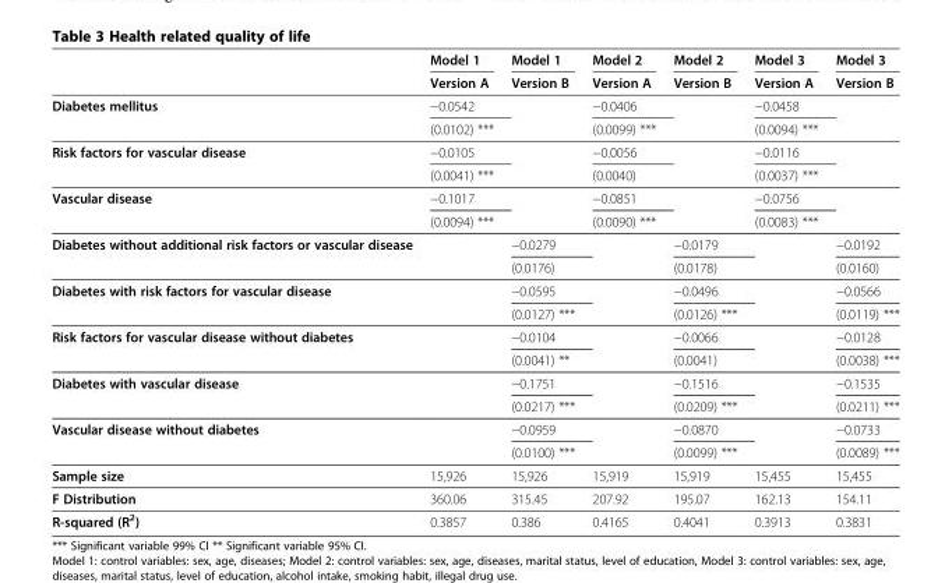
<table><thead><tr><td rowspan="2"></td><td rowspan="2">Model 1 Version A</td><td rowspan="2">Model 1 Version B</td><td rowspan="2">Model 2 Version A</td><td rowspan="2">Model 2 Version B</td><td rowspan="2">Model 3 Version A</td><td rowspan="2">Model 3 Version B</td></tr><tr></tr></thead><tbody><tr><td rowspan="2">Diabetes mellitus</td><td>−0.0542</td><td></td><td>−0.0406</td><td></td><td>−0.0458</td><td></td></tr><tr><td>(0.0102) ***</td><td></td><td>(0.0099) ***</td><td></td><td>(0.0094) ***</td><td></td></tr><tr><td rowspan="2">Risk factors for vascular disease</td><td>−0.0105</td><td></td><td>−0.0056</td><td></td><td>−0.0116</td><td></td></tr><tr><td>(0.0041) ***</td><td></td><td>(0.0040)</td><td></td><td>(0.0037) ***</td><td></td></tr><tr><td rowspan="2">Vascular disease</td><td>−0.1017</td><td></td><td>−0.0851</td><td></td><td>−0.0756</td><td></td></tr><tr><td>(0.0094) ***</td><td></td><td>(0.0090) ***</td><td></td><td>(0.0083) ***</td><td></td></tr><tr><td rowspan="2">Diabetes without additional risk factors or vascular disease</td><td></td><td>−0.0279</td><td></td><td>−0.0179</td><td></td><td>−0.0192</td></tr><tr><td></td><td>(0.0176)</td><td></td><td>(0.0178)</td><td></td><td>(0.0160)</td></tr><tr><td rowspan="2">Diabetes with risk factors for vascular disease</td><td></td><td>−0.0595</td><td></td><td>−0.0496</td><td></td><td>−0.0566</td></tr><tr><td></td><td>(0.0127) ***</td><td></td><td>(0.0126) ***</td><td></td><td>(0.0119) ***</td></tr><tr><td rowspan="2">Risk factors for vascular disease without diabetes</td><td></td><td>−0.0104</td><td></td><td>−0.0066</td><td></td><td>−0.0128</td></tr><tr><td></td><td>(0.0041) **</td><td></td><td>(0.0041)</td><td></td><td>(0.0038) ***</td></tr><tr><td rowspan="2">Diabetes with vascular disease</td><td></td><td>−0.1751</td><td></td><td>−0.1516</td><td></td><td>−0.1535</td></tr><tr><td></td><td>(0.0217) ***</td><td></td><td>(0.0209) ***</td><td></td><td>(0.0211) ***</td></tr><tr><td rowspan="2">Vascular disease without diabetes</td><td></td><td>−0.0959</td><td></td><td>−0.0870</td><td></td><td>−0.0733</td></tr><tr><td></td><td>(0.0100) ***</td><td></td><td>(0.0099) ***</td><td></td><td>(0.0089) ***</td></tr><tr><td>Sample size</td><td>15,926</td><td>15,926</td><td>15,919</td><td>15,919</td><td>15,455</td><td>15,455</td></tr><tr><td>F Distribution</td><td>360.06</td><td>315.45</td><td>207.92</td><td>195.07</td><td>162.13</td><td>154.11</td></tr><tr><td>R-squared (R<sup>2</sup>)</td><td>0.3857</td><td>0.386</td><td>0.4165</td><td>0.4041</td><td>0.3913</td><td>0.3831</td></tr></tbody></table>